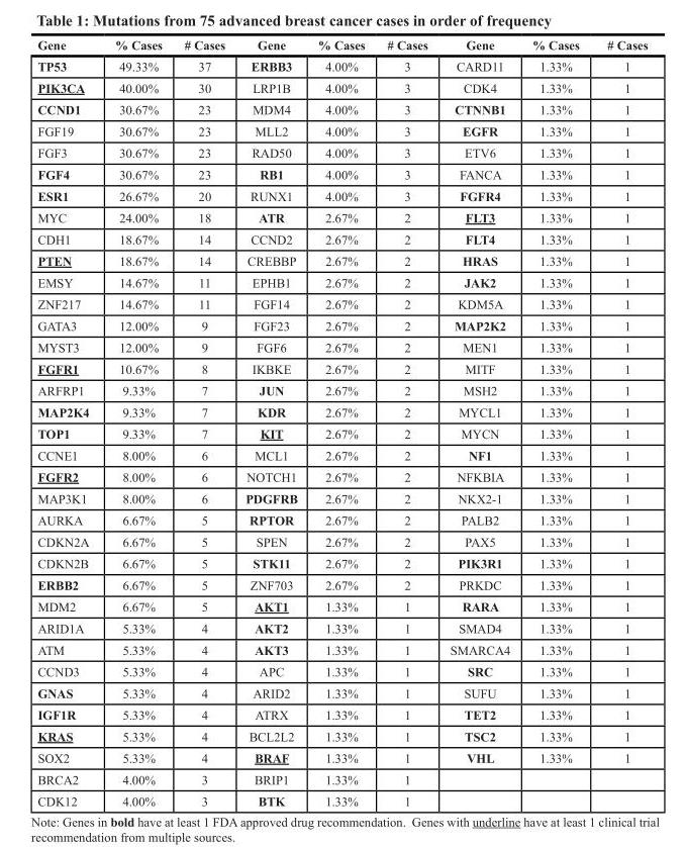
<table><thead><tr><td>Gene</td><td>% Cases</td><td># Cases</td><td>Gene</td><td>% Cases</td><td># Cases</td><td>Gene</td><td>% Cases</td><td># Cases</td></tr></thead><tbody><tr><td>TP53</td><td>49.33%</td><td>37</td><td>ERBB3</td><td>4.00%</td><td>3</td><td>CARD11</td><td>1.33%</td><td>1</td></tr><tr><td>PIK3CA</td><td>40.00%</td><td>30</td><td>LRP1B</td><td>4.00%</td><td>3</td><td>CDK4</td><td>1.33%</td><td>1</td></tr><tr><td>CCND1</td><td>30.67%</td><td>23</td><td>MDM4</td><td>4.00%</td><td>3</td><td>CTNNB1</td><td>1.33%</td><td>1</td></tr><tr><td>FGF19</td><td>30.67%</td><td>23</td><td>MLL2</td><td>4.00%</td><td>3</td><td>EGFR</td><td>1.33%</td><td>1</td></tr><tr><td>FGF3</td><td>30.67%</td><td>23</td><td>RAD50</td><td>4.00%</td><td>3</td><td>ETV6</td><td>1.33%</td><td>1</td></tr><tr><td>FGF4</td><td>30.67%</td><td>23</td><td>RB1</td><td>4.00%</td><td>3</td><td>FANCA</td><td>1.33%</td><td>1</td></tr><tr><td>ESR1</td><td>26.67%</td><td>20</td><td>RUNX1</td><td>4.00%</td><td>3</td><td>FGFR4</td><td>1.33%</td><td>1</td></tr><tr><td>MYC</td><td>24.00%</td><td>18</td><td>ATR</td><td>2.67%</td><td>2</td><td>FLT3</td><td>1.33%</td><td>1</td></tr><tr><td>CDH1</td><td>18.67%</td><td>14</td><td>CCND2</td><td>2.67%</td><td>2</td><td>FLT4</td><td>1.33%</td><td>1</td></tr><tr><td>PTEN</td><td>18.67%</td><td>14</td><td>CREBBP</td><td>2.67%</td><td>2</td><td>HRAS</td><td>1.33%</td><td>1</td></tr><tr><td>EMSY</td><td>14.67%</td><td>11</td><td>EPHB1</td><td>2.67%</td><td>2</td><td>JAK2</td><td>1.33%</td><td>1</td></tr><tr><td>ZNF217</td><td>14.67%</td><td>11</td><td>FGF14</td><td>2.67%</td><td>2</td><td>KDM5A</td><td>1.33%</td><td>1</td></tr><tr><td>GATA3</td><td>12.00%</td><td>9</td><td>FGF23</td><td>2.67%</td><td>2</td><td>MAP2K2</td><td>1.33%</td><td>1</td></tr><tr><td>MYST3</td><td>12.00%</td><td>9</td><td>FGF6</td><td>2.67%</td><td>2</td><td>MEN1</td><td>1.33%</td><td>1</td></tr><tr><td>FGFR1</td><td>10.67%</td><td>8</td><td>IKBKE</td><td>2.67%</td><td>2</td><td>MITF</td><td>1.33%</td><td>1</td></tr><tr><td>ARFRP1</td><td>9.33%</td><td>7</td><td>JUN</td><td>2.67%</td><td>2</td><td>MSH2</td><td>1.33%</td><td>1</td></tr><tr><td>MAP2K4</td><td>9.33%</td><td>7</td><td>KDR</td><td>2.67%</td><td>2</td><td>MYCL1</td><td>1.33%</td><td>1</td></tr><tr><td>TOP1</td><td>9.33%</td><td>7</td><td>KIT</td><td>2.67%</td><td>2</td><td>MYCN</td><td>1.33%</td><td>1</td></tr><tr><td>CCNE1</td><td>8.00%</td><td>6</td><td>MCL1</td><td>2.67%</td><td>2</td><td>NF1</td><td>1.33%</td><td>1</td></tr><tr><td>FGFR2</td><td>8.00%</td><td>6</td><td>NOTCH1</td><td>2.67%</td><td>2</td><td>NFKBIA</td><td>1.33%</td><td>1</td></tr><tr><td>MAP3K1</td><td>8.00%</td><td>6</td><td>PDGFRB</td><td>2.67%</td><td>2</td><td>NKX2-1</td><td>1.33%</td><td>1</td></tr><tr><td>AURKA</td><td>6.67%</td><td>5</td><td>RPTOR</td><td>2.67%</td><td>2</td><td>PALB2</td><td>1.33%</td><td>1</td></tr><tr><td>CDKN2A</td><td>6.67%</td><td>5</td><td>SPEN</td><td>2.67%</td><td>2</td><td>PAX5</td><td>1.33%</td><td>1</td></tr><tr><td>CDKN2B</td><td>6.67%</td><td>5</td><td>STK11</td><td>2.67%</td><td>2</td><td>PIK3R1</td><td>1.33%</td><td>1</td></tr><tr><td>ERBB2</td><td>6.67%</td><td>5</td><td>ZNF703</td><td>2.67%</td><td>2</td><td>PRKDC</td><td>1.33%</td><td>1</td></tr><tr><td>MDM2</td><td>6.67%</td><td>5</td><td>AKT1</td><td>1.33%</td><td>1</td><td>RARA</td><td>1.33%</td><td>1</td></tr><tr><td>ARID1A</td><td>5.33%</td><td>4</td><td>AKT2</td><td>1.33%</td><td>1</td><td>SMAD4</td><td>1.33%</td><td>1</td></tr><tr><td>ATM</td><td>5.33%</td><td>4</td><td>AKT3</td><td>1.33%</td><td>1</td><td>SMARCA4</td><td>1.33%</td><td>1</td></tr><tr><td>CCND3</td><td>5.33%</td><td>4</td><td>APC</td><td>1.33%</td><td>1</td><td>SRC</td><td>1.33%</td><td>1</td></tr><tr><td>GNAS</td><td>5.33%</td><td>4</td><td>ARID2</td><td>1.33%</td><td>1</td><td>SUFU</td><td>1.33%</td><td>1</td></tr><tr><td>IGF1R</td><td>5.33%</td><td>4</td><td>ATRX</td><td>1.33%</td><td>1</td><td>TET2</td><td>1.33%</td><td>1</td></tr><tr><td>KRAS</td><td>5.33%</td><td>4</td><td>BCL2L2</td><td>1.33%</td><td>1</td><td>TSC2</td><td>1.33%</td><td>1</td></tr><tr><td>SOX2</td><td>5.33%</td><td>4</td><td>BRAF</td><td>1.33%</td><td>1</td><td>VHL</td><td>1.33%</td><td>1</td></tr><tr><td>BRCA2</td><td>4.00%</td><td>3</td><td>BRIP1</td><td>1.33%</td><td>1</td><td></td><td></td><td></td></tr><tr><td>CDK12</td><td>4.00%</td><td>3</td><td>BTK</td><td>1.33%</td><td>1</td><td></td><td></td><td></td></tr></tbody></table>